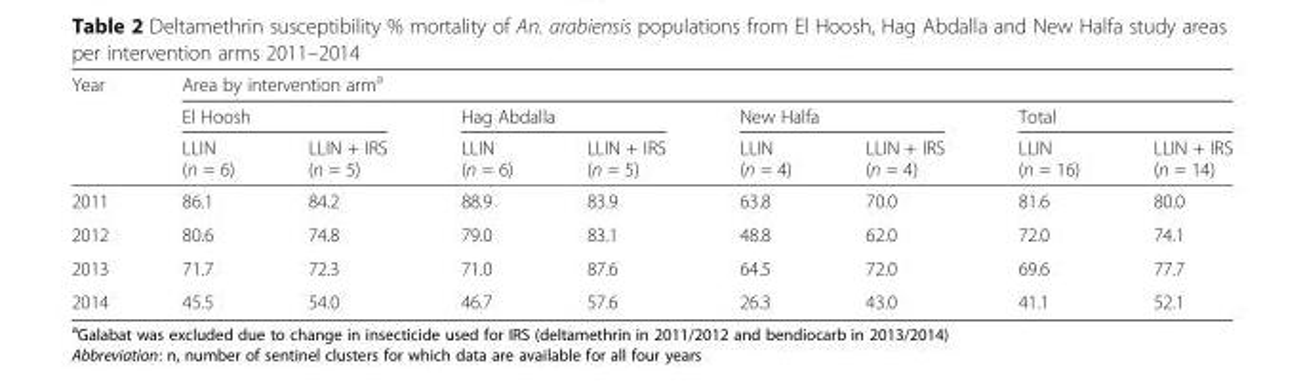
<table><thead><tr><td rowspan="3">Year</td><td colspan="8">Area by intervention arm<sup>a</sup></td></tr><tr><td colspan="2">El Hoosh</td><td colspan="2">Hag Abdalla</td><td colspan="2">New Halfa</td><td colspan="2">Total</td></tr><tr><td>LLIN (n = 6)</td><td>LLIN + IRS (n = 5)</td><td>LLIN (n = 6)</td><td>LLIN + IRS (n = 5)</td><td>LLIN (n = 4)</td><td>LLIN + IRS (n = 4)</td><td>LLIN (n = 16)</td><td>LLIN + IRS (n = 14)</td></tr></thead><tbody><tr><td>2011</td><td>86.1</td><td>84.2</td><td>88.9</td><td>83.9</td><td>63.8</td><td>70.0</td><td>81.6</td><td>80.0</td></tr><tr><td>2012</td><td>80.6</td><td>74.8</td><td>79.0</td><td>83.1</td><td>48.8</td><td>62.0</td><td>72.0</td><td>74.1</td></tr><tr><td>2013</td><td>71.7</td><td>72.3</td><td>71.0</td><td>87.6</td><td>64.5</td><td>72.0</td><td>69.6</td><td>77.7</td></tr><tr><td>2014</td><td>45.5</td><td>54.0</td><td>46.7</td><td>57.6</td><td>26.3</td><td>43.0</td><td>41.1</td><td>52.1</td></tr></tbody></table>